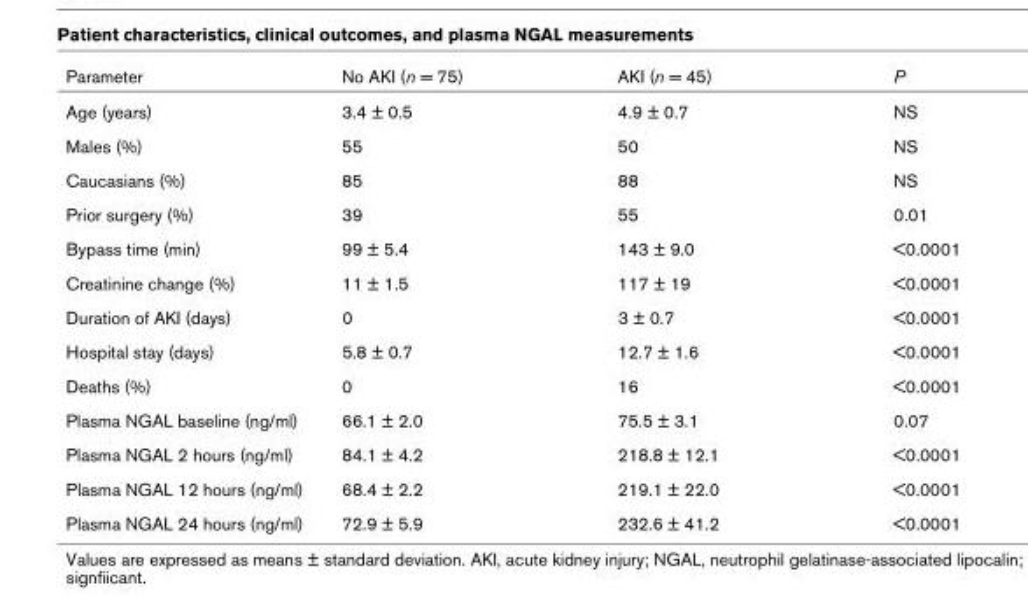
<table><thead><tr><td>Parameter</td><td>No AKI (n = 75)</td><td>AKI (n = 45)</td><td>P</td></tr></thead><tbody><tr><td>Age (years)</td><td>3.4 ± 0.5</td><td>4.9 ± 0.7</td><td>NS</td></tr><tr><td>Males (%)</td><td>55</td><td>50</td><td>NS</td></tr><tr><td>Caucasians (%)</td><td>85</td><td>88</td><td>NS</td></tr><tr><td>Prior surgery (%)</td><td>39</td><td>55</td><td>0.01</td></tr><tr><td>Bypass time (min)</td><td>99 ± 5.4</td><td>143 ± 9.0</td><td>&lt;0.0001</td></tr><tr><td>Creatinine change (%)</td><td>11 ± 1.5</td><td>117 ± 19</td><td>&lt;0.0001</td></tr><tr><td>Duration of AKI (days)</td><td>0</td><td>3 ± 0.7</td><td>&lt;0.0001</td></tr><tr><td>Hospital stay (days)</td><td>5.8 ± 0.7</td><td>12.7 ± 1.6</td><td>&lt;0.0001</td></tr><tr><td>Deaths (%)</td><td>0</td><td>16</td><td>&lt;0.0001</td></tr><tr><td>Plasma NGAL baseline (ng/ml)</td><td>66.1 ± 2.0</td><td>75.5 ± 3.1</td><td>0.07</td></tr><tr><td>Plasma NGAL 2 hours (ng/ml)</td><td>84.1 ± 4.2</td><td>218.8 ± 12.1</td><td>&lt;0.0001</td></tr><tr><td>Plasma NGAL 12 hours (ng/ml)</td><td>68.4 ± 2.2</td><td>219.1 ± 22.0</td><td>&lt;0.0001</td></tr><tr><td>Plasma NGAL 24 hours (ng/ml)</td><td>72.9 ± 5.9</td><td>232.6 ± 41.2</td><td>&lt;0.0001</td></tr></tbody></table>